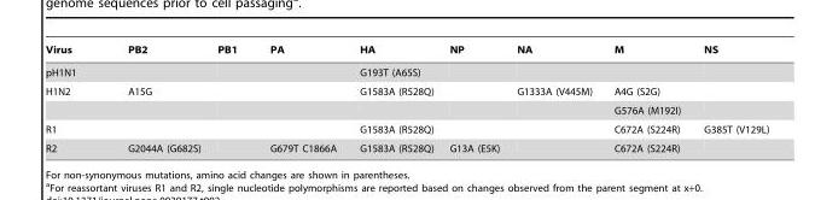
<table><thead><tr><td>Virus</td><td>PB2</td><td>PB1</td><td>PA</td><td>HA</td><td>NP</td><td>NA</td><td>M</td><td>NS</td></tr></thead><tbody><tr><td>pH1N1</td><td></td><td></td><td></td><td>G193T (A65S)</td><td></td><td></td><td></td><td></td></tr><tr><td rowspan="2">H1N2</td><td>A15G</td><td></td><td></td><td>G1583A (R528Q)</td><td></td><td>G1333A (V445M)</td><td>A4G (S2G)</td><td></td></tr><tr><td></td><td></td><td></td><td></td><td></td><td></td><td>G576A (M192I)</td><td></td></tr><tr><td>R1</td><td></td><td></td><td></td><td>G1583A (R528Q)</td><td></td><td></td><td>C672A (S224R)</td><td>G385T (V129L)</td></tr><tr><td>R2</td><td>G2044A (G682S)</td><td></td><td>G679T C1866A</td><td>G1583A (R528Q)</td><td>G13A (E5K)</td><td></td><td>C672A (S224R)</td><td></td></tr></tbody></table>